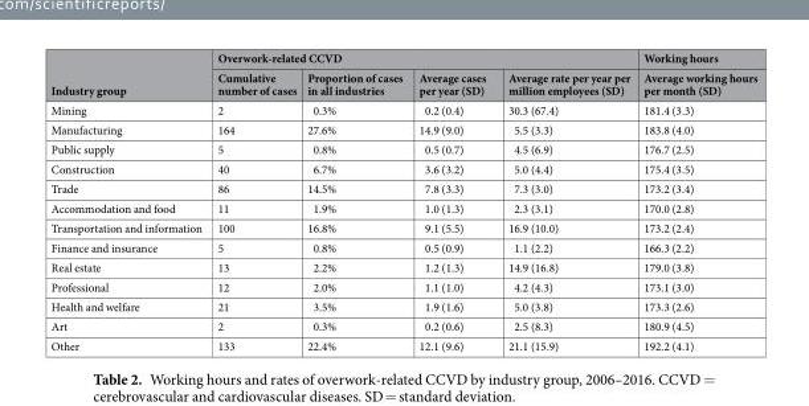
<table><thead><tr><td rowspan="2">Industry group</td><td colspan="4">Overwork-related CCVD</td><td rowspan="2">Working hours Average working hours per month (SD)</td></tr><tr><td>Cumulative number of cases</td><td>Proportion of cases in all industries</td><td>Average cases per year (SD)</td><td>Average rate per year per million employees (SD)</td></tr></thead><tbody><tr><td>Mining</td><td>2</td><td>0.3%</td><td>0.2 (0.4)</td><td>30.3 (67.4)</td><td>181.4 (3.3)</td></tr><tr><td>Manufacturing</td><td>164</td><td>27.6%</td><td>14.9 (9.0)</td><td>5.5 (3.3)</td><td>183.8 (4.0)</td></tr><tr><td>Public supply</td><td>5</td><td>0.8%</td><td>0.5 (0.7)</td><td>4.5 (6.9)</td><td>176.7 (2.5)</td></tr><tr><td>Construction</td><td>40</td><td>6.7%</td><td>3.6 (3.2)</td><td>5.0 (4.4)</td><td>175.4 (3.5)</td></tr><tr><td>Trade</td><td>86</td><td>14.5%</td><td>7.8 (3.3)</td><td>7.3 (3.0)</td><td>173.2 (3.4)</td></tr><tr><td>Accommodation and food</td><td>11</td><td>1.9%</td><td>1.0 (1.3)</td><td>2.3 (3.1)</td><td>170.0 (2.8)</td></tr><tr><td>Transportation and information</td><td>100</td><td>16.8%</td><td>9.1 (5.5)</td><td>16.9 (10.0)</td><td>173.2 (2.4)</td></tr><tr><td>Finance and insurance</td><td>5</td><td>0.8%</td><td>0.5 (0.9)</td><td>1.1 (2.2)</td><td>166.3 (2.2)</td></tr><tr><td>Real estate</td><td>13</td><td>2.2%</td><td>1.2 (1.3)</td><td>14.9 (16.8)</td><td>179.0 (3.8)</td></tr><tr><td>Professional</td><td>12</td><td>2.0%</td><td>1.1 (1.0)</td><td>4.2 (4.3)</td><td>173.1 (3.0)</td></tr><tr><td>Health and welfare</td><td>21</td><td>3.5%</td><td>1.9 (1.6)</td><td>5.0 (3.8)</td><td>173.3 (2.6)</td></tr><tr><td>Art</td><td>2</td><td>0.3%</td><td>0.2 (0.6)</td><td>2.5 (8.3)</td><td>180.9 (4.5)</td></tr><tr><td>Other</td><td>133</td><td>22.4%</td><td>12.1 (9.6)</td><td>21.1 (15.9)</td><td>192.2 (4.1)</td></tr></tbody></table>